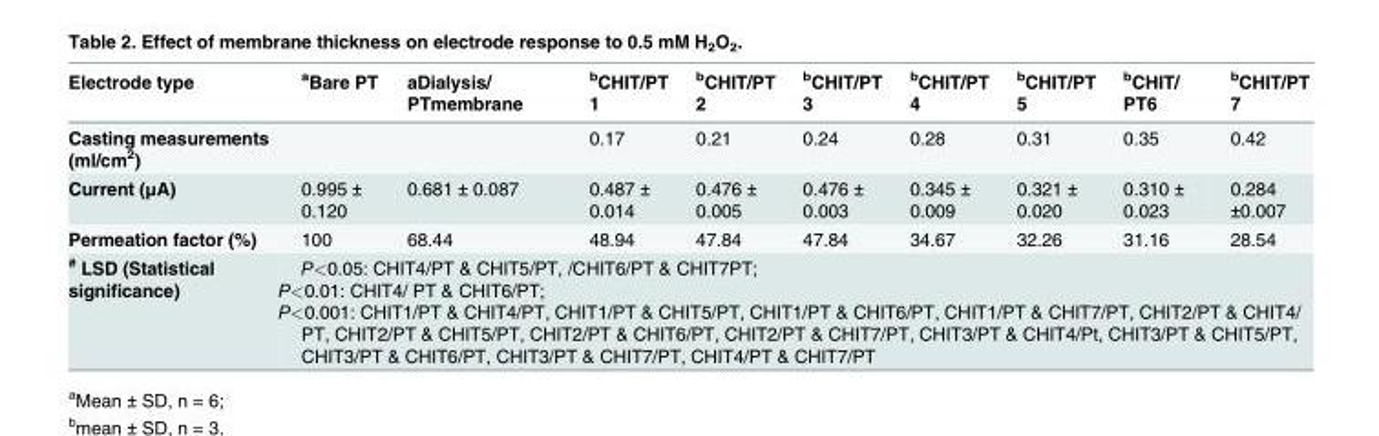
<table><thead><tr><td>Electrode type</td><td><sup>a</sup>Bare PT</td><td>aDialysis/ PTmembrane</td><td><sup>b</sup>CHIT/PT 1</td><td><sup>b</sup>CHIT/PT 2</td><td><sup>b</sup>CHIT/PT 3</td><td><sup>b</sup>CHIT/PT 4</td><td><sup>b</sup>CHIT/PT 5</td><td><sup>b</sup>CHIT/ PT6</td><td><sup>b</sup>CHIT/PT 7</td></tr></thead><tbody><tr><td>Casting measurements (ml/cm<sup>2</sup>)</td><td></td><td></td><td>0.17</td><td>0.21</td><td>0.24</td><td>0.28</td><td>0.31</td><td>0.35</td><td>0.42</td></tr><tr><td>Current (μA)</td><td>0.995 ± 0.120</td><td>0.681 ± 0.087</td><td>0.487 ± 0.014</td><td>0.476 ± 0.005</td><td>0.476 ± 0.003</td><td>0.345 ± 0.009</td><td>0.321 ± 0.020</td><td>0.310 ± 0.023</td><td>0.284 ±0.007</td></tr><tr><td>Permeation factor (%)</td><td>100</td><td>68.44</td><td>48.94</td><td>47.84</td><td>47.84</td><td>34.67</td><td>32.26</td><td>31.16</td><td>28.54</td></tr><tr><td><sup>#</sup> LSD (Statistical significance)</td><td colspan="9">P&lt;0.05: CHIT4/PT &amp; CHIT5/PT, /CHIT6/PT &amp; CHIT7PT; P&lt;0.01: CHIT4/ PT &amp; CHIT6/PT; P&lt;0.001: CHIT1/PT &amp; CHIT4/PT, CHIT1/PT &amp; CHIT5/PT, CHIT1/PT &amp; CHIT6/PT, CHIT1/PT &amp; CHIT7/PT, CHIT2/PT &amp; CHIT4/ PT, CHIT2/PT &amp; CHIT5/PT, CHIT2/PT &amp; CHIT6/PT, CHIT2/PT &amp; CHIT7/PT, CHIT3/PT &amp; CHIT4/Pt, CHIT3/PT &amp; CHIT5/PT, CHIT3/PT &amp; CHIT6/PT, CHIT3/PT &amp; CHIT7/PT, CHIT4/PT &amp; CHIT7/PT</td></tr></tbody></table>